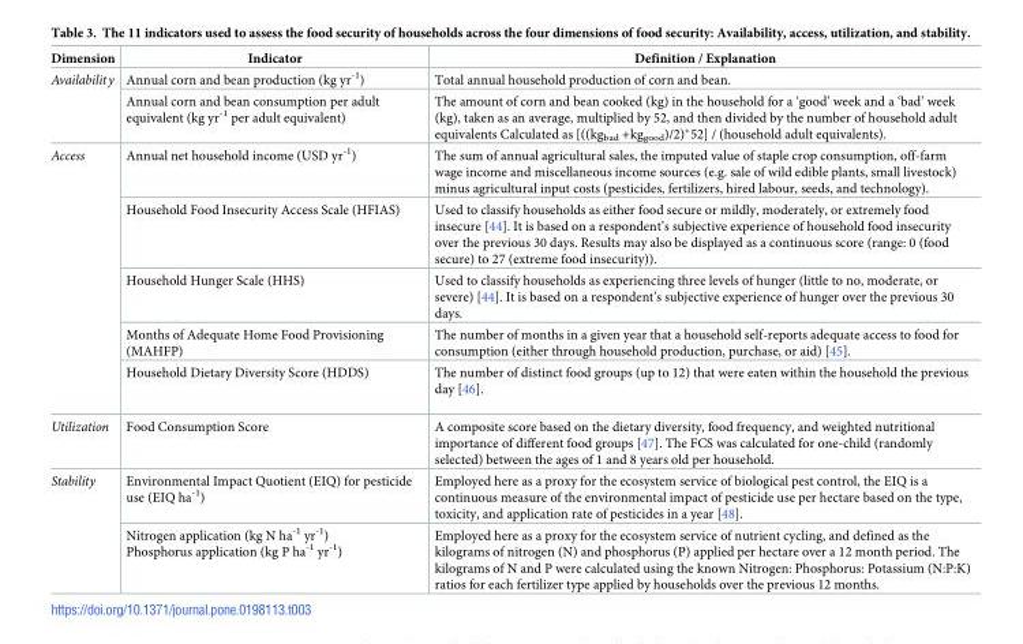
<table><thead><tr><td>Dimension</td><td>Indicator</td><td>Definition / Explanation</td></tr></thead><tbody><tr><td rowspan="2">Availability</td><td>Annual corn and bean production (kg yr<sup>-1</sup>)</td><td>Total annual household production of corn and bean.</td></tr><tr><td>Annual corn and bean consumption per adult equivalent (kg yr<sup>-1</sup> per adult equivalent)</td><td>The amount of corn and bean cooked (kg) in the household for a ‘good’ week and a ‘bad’ week (kg), taken as an average, multiplied by 52, and then divided by the number of household adult equivalents Calculated as [((kg<sub>bad</sub> +kg<sub>good</sub>)/2)*52] / (household adult equivalents).</td></tr><tr><td rowspan="5">Access</td><td>Annual net household income (USD yr<sup>-1</sup>)</td><td>The sum of annual agricultural sales, the imputed value of staple crop consumption, off-farm wage income and miscellaneous income sources (e.g. sale of wild edible plants, small livestock) minus agricultural input costs (pesticides, fertilizers, hired labour, seeds, and technology).</td></tr><tr><td>Household Food Insecurity Access Scale (HFIAS)</td><td>Used to classify households as either food secure or mildly, moderately, or extremely food insecure [44]. It is based on a respondent’s subjective experience of household food insecurity over the previous 30 days. Results may also be displayed as a continuous score (range: 0 (food secure) to 27 (extreme food insecurity)).</td></tr><tr><td>Household Hunger Scale (HHS)</td><td>Used to classify households as experiencing three levels of hunger (little to no, moderate, or severe) [44]. It is based on a respondent’s subjective experience of hunger over the previous 30 days.</td></tr><tr><td>Months of Adequate Home Food Provisioning (MAHFP)</td><td>The number of months in a given year that a household self-reports adequate access to food for consumption (either through household production, purchase, or aid) [45].</td></tr><tr><td>Household Dietary Diversity Score (HDDS)</td><td>The number of distinct food groups (up to 12) that were eaten within the household the previous day [46].</td></tr><tr><td>Utilization</td><td>Food Consumption Score</td><td>A composite score based on the dietary diversity, food frequency, and weighted nutritional importance of different food groups [47]. The FCS was calculated for one-child (randomly selected) between the ages of 1 and 8 years old per household.</td></tr><tr><td rowspan="2">Stability</td><td>Environmental Impact Quotient (EIQ) for pesticide use (EIQ ha<sup>-1</sup>)</td><td>Employed here as a proxy for the ecosystem service of biological pest control, the EIQ is a continuous measure of the environmental impact of pesticide use per hectare based on the type, toxicity, and application rate of pesticides in a year [48].</td></tr><tr><td>Nitrogen application (kg N ha<sup>-1</sup> yr<sup>-1</sup>) Phosphorus application (kg P ha<sup>-1</sup> yr<sup>-1</sup>)</td><td>Employed here as a proxy for the ecosystem service of nutrient cycling, and defined as the kilograms of nitrogen (N) and phosphorus (P) applied per hectare over a 12 month period. The kilograms of N and P were calculated using the known Nitrogen: Phosphorus: Potassium (N:P:K) ratios for each fertilizer type applied by households over the previous 12 months.</td></tr></tbody></table>